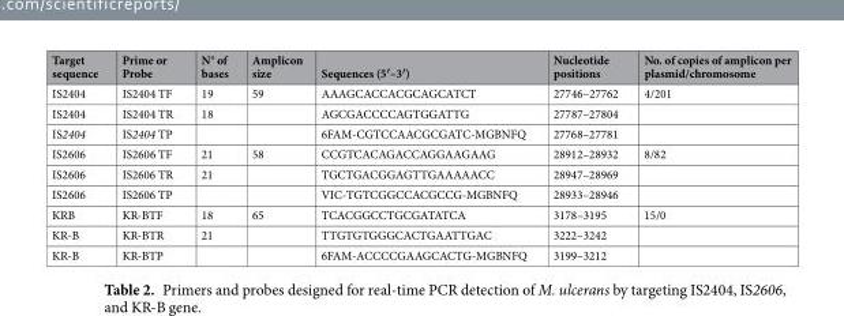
<table><thead><tr><td>Target sequence</td><td>Prime or Probe</td><td>N° of bases</td><td>Amplicon size</td><td>Sequences (5′–3′)</td><td>Nucleotide positions</td><td>No. of copies of amplicon per plasmid/chromosome</td></tr></thead><tbody><tr><td>IS2404</td><td>IS2404 TF</td><td>19</td><td>59</td><td>AAAGCACCACGCAGCATCT</td><td>27746–27762</td><td>4/201</td></tr><tr><td>IS2404</td><td>IS2404 TR</td><td>18</td><td></td><td>AGCGACCCCAGTGGATTG</td><td>27787–27804</td><td></td></tr><tr><td>IS2404</td><td>IS2404 TP</td><td></td><td></td><td>6FAM-CGTCCAACGCGATC-MGBNFQ</td><td>27768–27781</td><td></td></tr><tr><td>IS2606</td><td>IS2606 TF</td><td>21</td><td>58</td><td>CCGTCACAGACCAGGAAGAAG</td><td>28912–28932</td><td>8/82</td></tr><tr><td>IS2606</td><td>IS2606 TR</td><td>21</td><td></td><td>TGCTGACGGAGTTGAAAAACC</td><td>28947–28969</td><td></td></tr><tr><td>IS2606</td><td>IS2606 TP</td><td></td><td></td><td>VIC-TGTCGGCCACGCCG-MGBNFQ</td><td>28933–28946</td><td></td></tr><tr><td>KRB</td><td>KR-BTF</td><td>18</td><td>65</td><td>TCACGGCCTGCGATATCA</td><td>3178–3195</td><td>15/0</td></tr><tr><td>KR-B</td><td>KR-BTR</td><td>21</td><td></td><td>TTGTGTGGGCACTGAATTGAC</td><td>3222–3242</td><td></td></tr><tr><td>KR-B</td><td>KR-BTP</td><td></td><td></td><td>6FAM-ACCCCGAAGCACTG-MGBNFQ</td><td>3199–3212</td><td></td></tr></tbody></table>